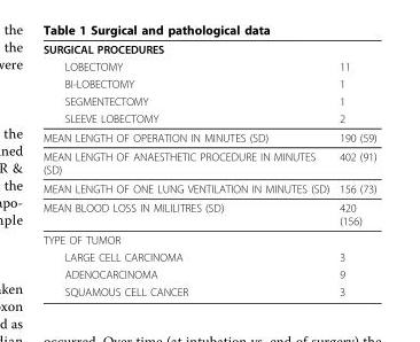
<table><thead><tr><td rowspan="5">SURGICAL PROCEDURES LOBECTOMY BI-LOBECTOMY SEGMENTECTOMY SLEEVE LOBECTOMY</td><td rowspan="5">11 1 1 2</td></tr><tr></tr><tr></tr><tr></tr><tr></tr></thead><tbody><tr><td>MEAN LENGTH OF OPERATION IN MINUTES (SD)</td><td>190 (59)</td></tr><tr><td>MEAN LENGTH OF ANAESTHETIC PROCEDURE IN MINUTES (SD)</td><td>402 (91)</td></tr><tr><td>MEAN LENGTH OF ONE LUNG VENTILATION IN MINUTES (SD)</td><td>156 (73)</td></tr><tr><td>MEAN BLOOD LOSS IN MILILITRES (SD)</td><td>420 (156)</td></tr><tr><td colspan="2">TYPE OF TUMOR</td></tr><tr><td>LARGE CELL CARCINOMA</td><td>3</td></tr><tr><td>ADENOCARCINOMA</td><td>9</td></tr><tr><td>SQUAMOUS CELL CANCER</td><td>3</td></tr></tbody></table>